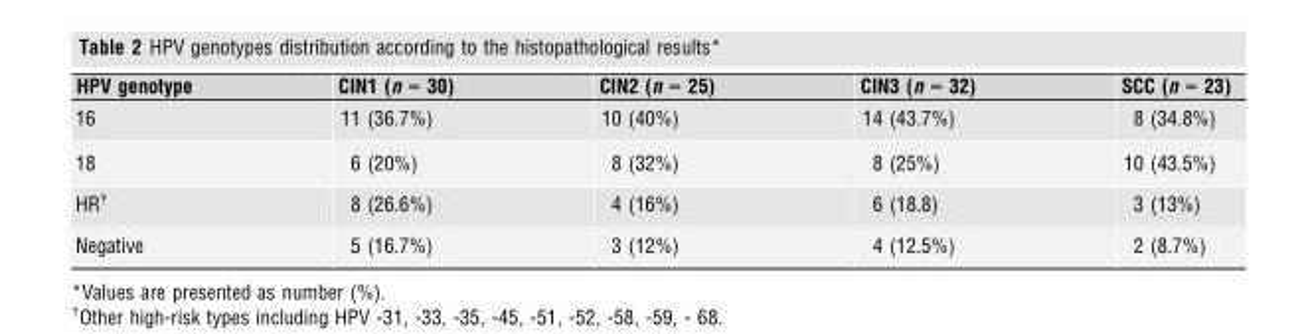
<table><thead><tr><td>HPV genotype</td><td>CIN1 (n = 30)</td><td>CIN2 (n = 25)</td><td>CIN3 (n = 32)</td><td>SCC (n = 23)</td></tr></thead><tbody><tr><td>16</td><td>11 (36.7%)</td><td>10 (40%)</td><td>14 (43.7%)</td><td>8 (34.8%)</td></tr><tr><td>18</td><td>6 (20%)</td><td>8 (32%)</td><td>8 (25%)</td><td>10 (43.5%)</td></tr><tr><td>HR†</td><td>8 (26.6%)</td><td>4 (16%)</td><td>6 (18.8)</td><td>3 (13%)</td></tr><tr><td>Negative</td><td>5 (16.7%)</td><td>3 (12%)</td><td>4 (12.5%)</td><td>2 (8.7%)</td></tr></tbody></table>